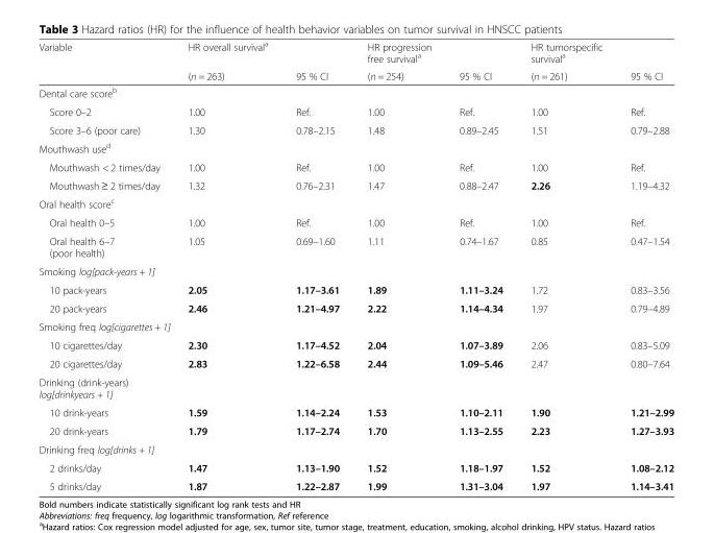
<table><thead><tr><td rowspan="2">Variable</td><td rowspan="2">HR overall survival<sup>a</sup> (n = 263)</td><td rowspan="2">95 % CI</td><td rowspan="2">HR progression free survival<sup>a</sup> (n = 254)</td><td rowspan="2">95 % CI</td><td rowspan="2">HR tumorspecific survival<sup>a</sup> (n = 261)</td><td rowspan="2">95 % CI</td></tr><tr></tr></thead><tbody><tr><td colspan="7">Dental care score<sup>b</sup></td></tr><tr><td>Score 0–2</td><td>1.00</td><td>Ref.</td><td>1.00</td><td>Ref.</td><td>1.00</td><td>Ref.</td></tr><tr><td>Score 3–6 (poor care)</td><td>1.30</td><td>0.78–2.15</td><td>1.48</td><td>0.89–2.45</td><td>1.51</td><td>0.79–2.88</td></tr><tr><td colspan="7">Mouthwash use<sup>d</sup></td></tr><tr><td>Mouthwash &lt; 2 times/day</td><td>1.00</td><td>Ref.</td><td>1.00</td><td>Ref.</td><td>1.00</td><td>Ref.</td></tr><tr><td>Mouthwash ≥ 2 times/day</td><td>1.32</td><td>0.76–2.31</td><td>1.47</td><td>0.88–2.47</td><td>2.26</td><td>1.19–4.32</td></tr><tr><td colspan="7">Oral health score<sup>c</sup></td></tr><tr><td>Oral health 0–5</td><td>1.00</td><td>Ref.</td><td>1.00</td><td>Ref.</td><td>1.00</td><td>Ref.</td></tr><tr><td>Oral health 6–7 (poor health)</td><td>1.05</td><td>0.69–1.60</td><td>1.11</td><td>0.74–1.67</td><td>0.85</td><td>0.47–1.54</td></tr><tr><td colspan="7">Smoking log[pack-years + 1]</td></tr><tr><td>10 pack-years</td><td>2.05</td><td>1.17–3.61</td><td>1.89</td><td>1.11–3.24</td><td>1.72</td><td>0.83–3.56</td></tr><tr><td>20 pack-years</td><td>2.46</td><td>1.21–4.97</td><td>2.22</td><td>1.14–4.34</td><td>1.97</td><td>0.79–4.89</td></tr><tr><td colspan="7">Smoking freq log[cigarettes + 1]</td></tr><tr><td>10 cigarettes/day</td><td>2.30</td><td>1.17–4.52</td><td>2.04</td><td>1.07–3.89</td><td>2.06</td><td>0.83–5.09</td></tr><tr><td>20 cigarettes/day</td><td>2.83</td><td>1.22–6.58</td><td>2.44</td><td>1.09–5.46</td><td>2.47</td><td>0.80–7.64</td></tr><tr><td colspan="7">Drinking (drink-years) log[drinkyears + 1]</td></tr><tr><td>10 drink-years</td><td>1.59</td><td>1.14–2.24</td><td>1.53</td><td>1.10–2.11</td><td>1.90</td><td>1.21–2.99</td></tr><tr><td>20 drink-years</td><td>1.79</td><td>1.17–2.74</td><td>1.70</td><td>1.13–2.55</td><td>2.23</td><td>1.27–3.93</td></tr><tr><td colspan="7">Drinking freq log[drinks + 1]</td></tr><tr><td>2 drinks/day</td><td>1.47</td><td>1.13–1.90</td><td>1.52</td><td>1.18–1.97</td><td>1.52</td><td>1.08–2.12</td></tr><tr><td>5 drinks/day</td><td>1.87</td><td>1.22–2.87</td><td>1.99</td><td>1.31–3.04</td><td>1.97</td><td>1.14–3.41</td></tr></tbody></table>